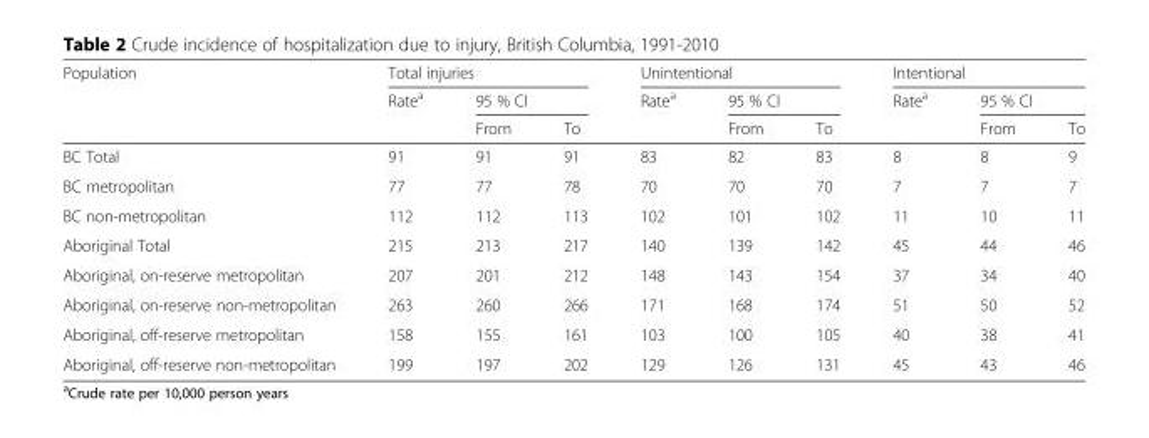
<table><thead><tr><td rowspan="3">Population</td><td colspan="3">Total injuries</td><td colspan="3">Unintentional</td><td colspan="3">Intentional</td></tr><tr><td rowspan="2">Rate<sup>a</sup></td><td colspan="2">95 % CI</td><td rowspan="2">Rate<sup>a</sup></td><td colspan="2">95 % CI</td><td rowspan="2">Rate<sup>a</sup></td><td colspan="2">95 % CI</td></tr><tr><td>From</td><td>To</td><td>From</td><td>To</td><td>From</td><td>To</td></tr></thead><tbody><tr><td>BC Total</td><td>91</td><td>91</td><td>91</td><td>83</td><td>82</td><td>83</td><td>8</td><td>8</td><td>9</td></tr><tr><td>BC metropolitan</td><td>77</td><td>77</td><td>78</td><td>70</td><td>70</td><td>70</td><td>7</td><td>7</td><td>7</td></tr><tr><td>BC non-metropolitan</td><td>112</td><td>112</td><td>113</td><td>102</td><td>101</td><td>102</td><td>11</td><td>10</td><td>11</td></tr><tr><td>Aboriginal Total</td><td>215</td><td>213</td><td>217</td><td>140</td><td>139</td><td>142</td><td>45</td><td>44</td><td>46</td></tr><tr><td>Aboriginal, on-reserve metropolitan</td><td>207</td><td>201</td><td>212</td><td>148</td><td>143</td><td>154</td><td>37</td><td>34</td><td>40</td></tr><tr><td>Aboriginal, on-reserve non-metropolitan</td><td>263</td><td>260</td><td>266</td><td>171</td><td>168</td><td>174</td><td>51</td><td>50</td><td>52</td></tr><tr><td>Aboriginal, off-reserve metropolitan</td><td>158</td><td>155</td><td>161</td><td>103</td><td>100</td><td>105</td><td>40</td><td>38</td><td>41</td></tr><tr><td>Aboriginal, off-reserve non-metropolitan</td><td>199</td><td>197</td><td>202</td><td>129</td><td>126</td><td>131</td><td>45</td><td>43</td><td>46</td></tr></tbody></table>